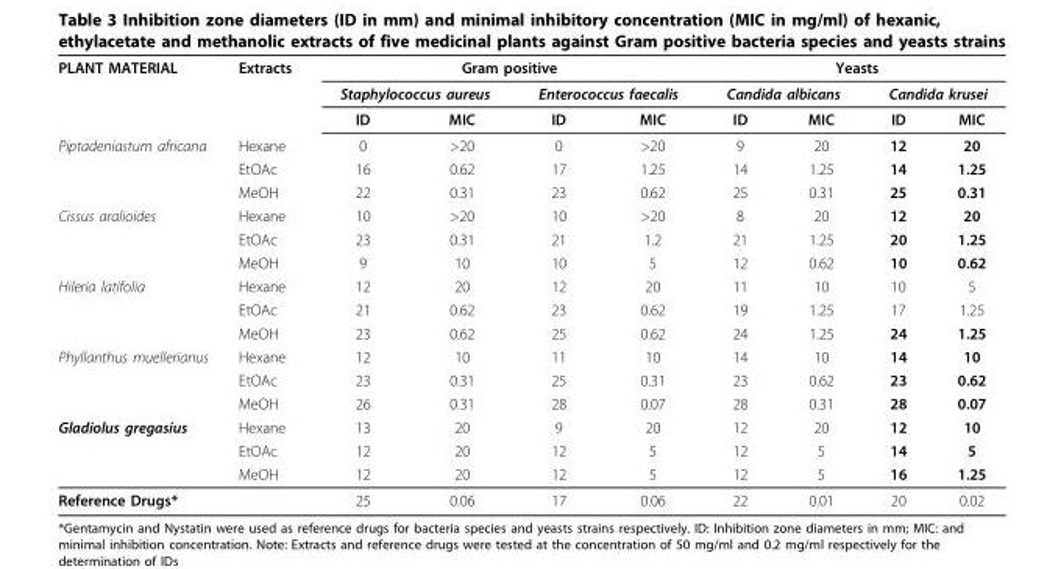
<table><thead><tr><td rowspan="18">PLANT MATERIAL Piptadeniastum africana Cissus aralioides Hileria latifolia Phyllanthus muellerianus Gladiolus gregasius</td><td rowspan="18">Extracts Hexane EtOAc MeOH Hexane EtOAc MeOH Hexane EtOAc MeOH Hexane EtOAc MeOH Hexane EtOAc MeOH</td><td colspan="4">Gram positive</td><td colspan="4">Yeasts</td></tr><tr><td colspan="2">Staphylococcus aureus</td><td colspan="2">Enterococcus faecalis</td><td colspan="2">Candida albicans</td><td colspan="2">Candida krusei</td></tr><tr><td rowspan="16">ID 0 16 22 10 23 9 12 21 23 12 23 26 13 12 12</td><td rowspan="16">MIC &gt;20 0.62 0.31 &gt;20 0.31 10 20 0.62 0.62 10 0.31 0.31 20 20 20</td><td rowspan="16">ID 0 17 23 10 21 10 12 23 25 11 25 28 9 12 12</td><td rowspan="16">MIC &gt;20 1.25 0.62 &gt;20 1.2 5 20 0.62 0.62 10 0.31 0.07 20 5 5</td><td rowspan="16">ID 9 14 25 8 21 12 11 19 24 14 23 28 12 12 12</td><td rowspan="16">MIC 20 1.25 0.31 20 1.25 0.62 10 1.25 1.25 10 0.62 0.31 20 5 5</td><td rowspan="16">ID 12 14 25 12 20 10 10 17 24 14 23 28 12 14 16</td><td rowspan="16">MIC 20 1.25 0.31 20 1.25 0.62 5 1.25 1.25 10 0.62 0.07 10 5 1.25</td></tr><tr></tr><tr></tr><tr></tr><tr></tr><tr></tr><tr></tr><tr></tr><tr></tr><tr></tr><tr></tr><tr></tr><tr></tr><tr></tr><tr></tr><tr></tr></thead><tbody><tr><td>Reference Drugs*</td><td></td><td>25</td><td>0.06</td><td>17</td><td>0.06</td><td>22</td><td>0.01</td><td>20</td><td>0.02</td></tr></tbody></table>